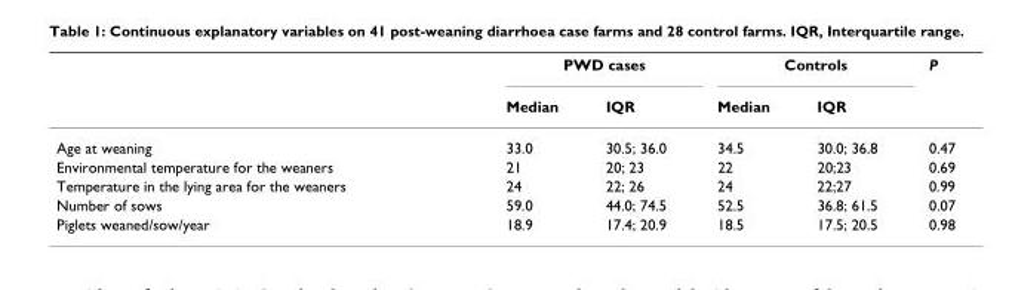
<table><thead><tr><td rowspan="2"></td><td colspan="2">PWD cases</td><td colspan="2">Controls</td><td rowspan="2">P</td></tr><tr><td>Median</td><td>IQR</td><td>Median</td><td>IQR</td></tr></thead><tbody><tr><td>Age at weaning</td><td>33.0</td><td>30.5; 36.0</td><td>34.5</td><td>30.0; 36.8</td><td>0.47</td></tr><tr><td>Environmental temperature for the weaners</td><td>21</td><td>20; 23</td><td>22</td><td>20;23</td><td>0.69</td></tr><tr><td>Temperature in the lying area for the weaners</td><td>24</td><td>22; 26</td><td>24</td><td>22;27</td><td>0.99</td></tr><tr><td>Number of sows</td><td>59.0</td><td>44.0; 74.5</td><td>52.5</td><td>36.8; 61.5</td><td>0.07</td></tr><tr><td>Piglets weaned/sow/year</td><td>18.9</td><td>17.4; 20.9</td><td>18.5</td><td>17.5; 20.5</td><td>0.98</td></tr></tbody></table>